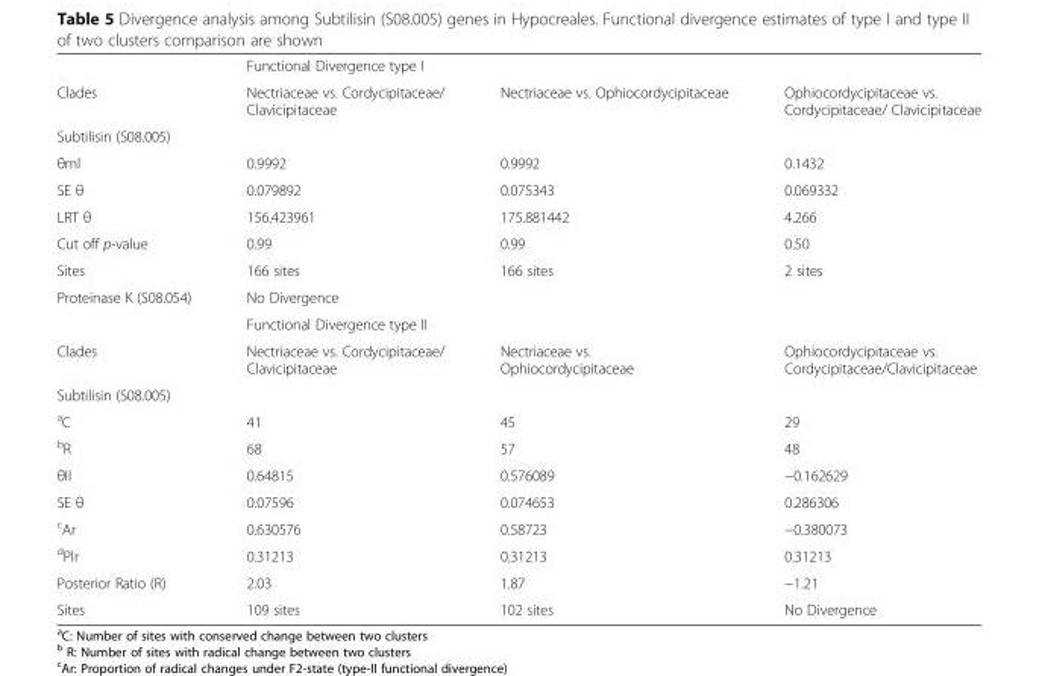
<table><thead><tr><td rowspan="2">Clades</td><td colspan="3">Functional Divergence type I</td></tr><tr><td>Nectriaceae vs. Cordycipitaceae/ Clavicipitaceae</td><td>Nectriaceae vs. Ophiocordycipitaceae</td><td>Ophiocordycipitaceae vs. Cordycipitaceae/ Clavicipitaceae</td></tr></thead><tbody><tr><td colspan="4">Subtilisin (S08.005)</td></tr><tr><td>θml</td><td>0.9992</td><td>0.9992</td><td>0.1432</td></tr><tr><td>SE θ</td><td>0.079892</td><td>0.075343</td><td>0.069332</td></tr><tr><td>LRT θ</td><td>156.423961</td><td>175.881442</td><td>4.266</td></tr><tr><td>Cut off p-value</td><td>0.99</td><td>0.99</td><td>0.50</td></tr><tr><td>Sites</td><td>166 sites</td><td>166 sites</td><td>2 sites</td></tr><tr><td rowspan="2">Proteinase K (S08.054)</td><td>No Divergence</td><td></td><td></td></tr><tr><td colspan="3">Functional Divergence type II</td></tr><tr><td>Clades</td><td>Nectriaceae vs. Cordycipitaceae/ Clavicipitaceae</td><td>Nectriaceae vs. Ophiocordycipitaceae</td><td>Ophiocordycipitaceae vs. Cordycipitaceae/Clavicipitaceae</td></tr><tr><td colspan="4">Subtilisin (S08.005)</td></tr><tr><td><sup>a</sup>C</td><td>41</td><td>45</td><td>29</td></tr><tr><td><sup>b</sup>R</td><td>68</td><td>57</td><td>48</td></tr><tr><td>θII</td><td>0.64815</td><td>0.576089</td><td>−0.162629</td></tr><tr><td>SE θ</td><td>0.07596</td><td>0.074653</td><td>0.286306</td></tr><tr><td><sup>c</sup>Ar</td><td>0.630576</td><td>0.58723</td><td>−0.380073</td></tr><tr><td><sup>d</sup>Plr</td><td>0.31213</td><td>0.31213</td><td>0.31213</td></tr><tr><td>Posterior Ratio (R)</td><td>2.03</td><td>1.87</td><td>−1.21</td></tr><tr><td>Sites</td><td>109 sites</td><td>102 sites</td><td>No Divergence</td></tr></tbody></table>